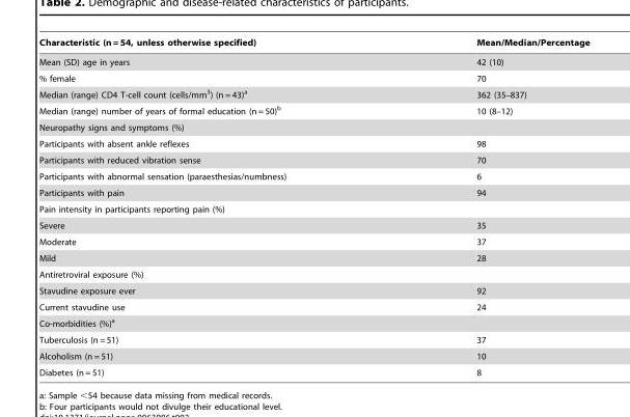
<table><thead><tr><td>Characteristic (n = 54, unless otherwise specified)</td><td>Mean/Median/Percentage</td></tr></thead><tbody><tr><td>Mean (SD) age in years</td><td>42 (10)</td></tr><tr><td>% female</td><td>70</td></tr><tr><td>Median (range) CD4 T-cell count (cells/mm<sup>3</sup>) (n = 43)<sup>a</sup></td><td>362 (35–837)</td></tr><tr><td>Median (range) number of years of formal education (n = 50)<sup>b</sup></td><td>10 (8–12)</td></tr><tr><td colspan="2">Neuropathy signs and symptoms (%)</td></tr><tr><td>Participants with absent ankle reflexes</td><td>98</td></tr><tr><td>Participants with reduced vibration sense</td><td>70</td></tr><tr><td>Participants with abnormal sensation (paraesthesias/numbness)</td><td>6</td></tr><tr><td>Participants with pain</td><td>94</td></tr><tr><td colspan="2">Pain intensity in participants reporting pain (%)</td></tr><tr><td>Severe</td><td>35</td></tr><tr><td>Moderate</td><td>37</td></tr><tr><td>Mild</td><td>28</td></tr><tr><td colspan="2">Antiretroviral exposure (%)</td></tr><tr><td>Stavudine exposure ever</td><td>92</td></tr><tr><td>Current stavudine use</td><td>24</td></tr><tr><td colspan="2">Co-morbidities (%)<sup>a</sup></td></tr><tr><td>Tuberculosis (n = 51)</td><td>37</td></tr><tr><td>Alcoholism (n = 51)</td><td>10</td></tr><tr><td>Diabetes (n = 51)</td><td>8</td></tr></tbody></table>